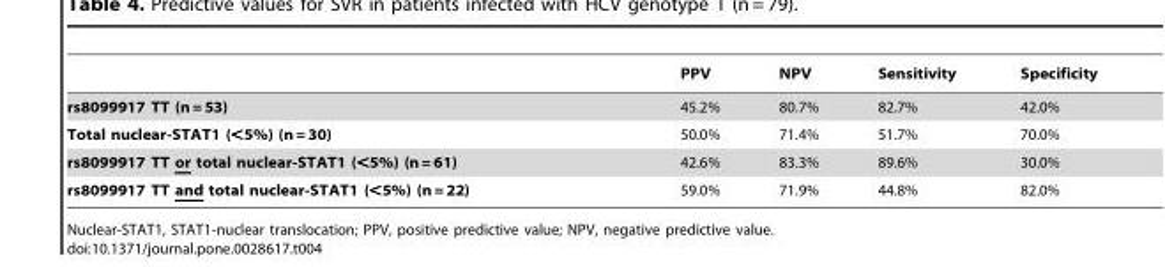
<table><thead><tr><td></td><td>PPV</td><td>NPV</td><td>Sensitivity</td><td>Specificity</td></tr></thead><tbody><tr><td>rs8099917 TT (n = 53)</td><td>45.2%</td><td>80.7%</td><td>82.7%</td><td>42.0%</td></tr><tr><td>Total nuclear-STAT1 (&lt;5%) (n = 30)</td><td>50.0%</td><td>71.4%</td><td>51.7%</td><td>70.0%</td></tr><tr><td>rs8099917 TT or total nuclear-STAT1 (&lt;5%) (n = 61)</td><td>42.6%</td><td>83.3%</td><td>89.6%</td><td>30.0%</td></tr><tr><td>rs8099917 TT and total nuclear-STAT1 (&lt;5%) (n = 22)</td><td>59.0%</td><td>71.9%</td><td>44.8%</td><td>82.0%</td></tr></tbody></table>